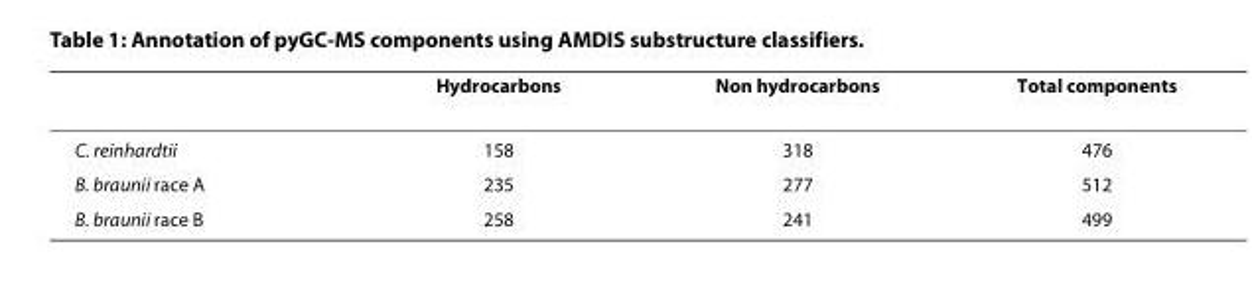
<table><thead><tr><td></td><td>Hydrocarbons</td><td>Non hydrocarbons</td><td>Total components</td></tr></thead><tbody><tr><td>C. reinhardtii</td><td>158</td><td>318</td><td>476</td></tr><tr><td>B. braunii race A</td><td>235</td><td>277</td><td>512</td></tr><tr><td>B. braunii race B</td><td>258</td><td>241</td><td>499</td></tr></tbody></table>